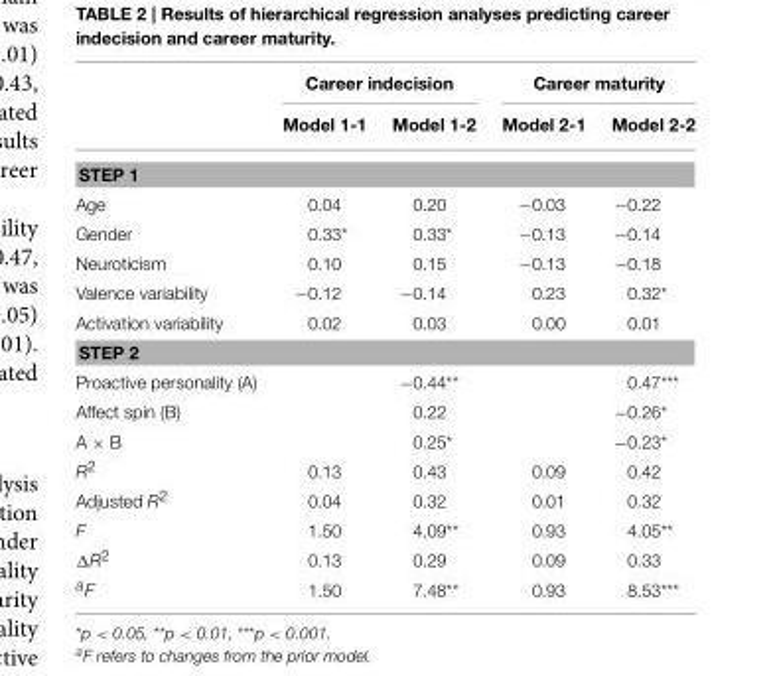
<table><thead><tr><td rowspan="2"></td><td colspan="2">Career indecision</td><td colspan="2">Career maturity</td></tr><tr><td>Model 1-1</td><td>Model 1-2</td><td>Model 2-1</td><td>Model 2-2</td></tr></thead><tbody><tr><td colspan="5">STEP 1</td></tr><tr><td>Age</td><td>0.04</td><td>0.20</td><td>−0.03</td><td>−0.22</td></tr><tr><td>Gender</td><td>0.33*</td><td>0.33*</td><td>−0.13</td><td>−0.14</td></tr><tr><td>Neuroticism</td><td>0.10</td><td>0.15</td><td>−0.13</td><td>−0.18</td></tr><tr><td>Valence variability</td><td>−0.12</td><td>−0.14</td><td>0.23</td><td>0.32*</td></tr><tr><td>Activation variability</td><td>0.02</td><td>0.03</td><td>0.00</td><td>0.01</td></tr><tr><td colspan="5">STEP 2</td></tr><tr><td>Proactive personality (A)</td><td></td><td>−0.44**</td><td></td><td>0.47***</td></tr><tr><td>Affect spin (B)</td><td></td><td>0.22</td><td></td><td>−0.26*</td></tr><tr><td>A × B</td><td></td><td>0.25*</td><td></td><td>−0.23*</td></tr><tr><td>R<sup>2</sup></td><td>0.13</td><td>0.43</td><td>0.09</td><td>0.42</td></tr><tr><td>Adjusted R<sup>2</sup></td><td>0.04</td><td>0.32</td><td>0.01</td><td>0.32</td></tr><tr><td>F</td><td>1.50</td><td>4.09**</td><td>0.93</td><td>4.05**</td></tr><tr><td>ΔR<sup>2</sup></td><td>0.13</td><td>0.29</td><td>0.09</td><td>0.33</td></tr><tr><td><sup>a</sup>F</td><td>1.50</td><td>7.48**</td><td>0.93</td><td>8.53***</td></tr></tbody></table>